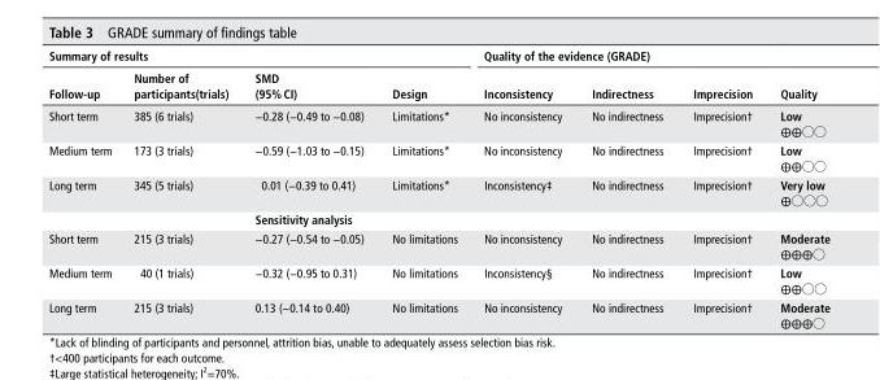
<table><thead><tr><td colspan="4">summary of results</td><td colspan="4">Quality of the evidence (grAdE)</td></tr><tr><td>Follow-up</td><td>number of participants(trials)</td><td>sMd (95% cI)</td><td>design</td><td>Inconsistency</td><td>Indirectness</td><td>Imprecision</td><td>Quality</td></tr></thead><tbody><tr><td>Short term</td><td>385 (6 trials)</td><td>−0.28 (−0.49 to −0.08)</td><td>Limitations*</td><td>No inconsistency</td><td>No indirectness</td><td>Imprecision†</td><td>low ⨁⨁◯◯</td></tr><tr><td>Medium term</td><td>173 (3 trials)</td><td>−0.59 (−1.03 to −0.15)</td><td>Limitations*</td><td>No inconsistency</td><td>No indirectness</td><td>Imprecision†</td><td>low ⨁⨁◯◯</td></tr><tr><td>Long term</td><td>345 (5 trials)</td><td>0.01 (−0.39 to 0.41)</td><td>Limitations*</td><td>Inconsistency‡</td><td>No indirectness</td><td>Imprecision†</td><td>Very low ⨁◯◯◯</td></tr><tr><td colspan="2"></td><td colspan="6">sensitivity analysis</td></tr><tr><td>Short term</td><td>215 (3 trials)</td><td>−0.27 (−0.54 to −0.05)</td><td>No limitations</td><td>No inconsistency</td><td>No indirectness</td><td>Imprecision†</td><td>Moderate ⨁⨁⨁◯</td></tr><tr><td>Medium term</td><td>40 (1 trials)</td><td>−0.32 (−0.95 to 0.31)</td><td>No limitations</td><td>Inconsistency§</td><td>No indirectness</td><td>Imprecision†</td><td>low ⨁⨁◯◯</td></tr><tr><td>Long term</td><td>215 (3 trials)</td><td>0.13 (−0.14 to 0.40)</td><td>No limitations</td><td>No inconsistency</td><td>No indirectness</td><td>Imprecision†</td><td>Moderate ⨁⨁⨁◯</td></tr></tbody></table>